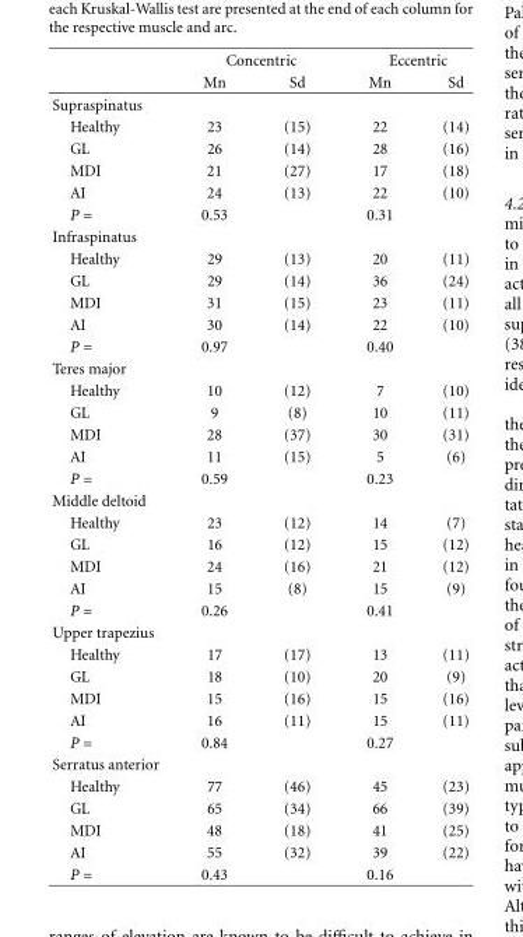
<table><thead><tr><td rowspan="2"></td><td colspan="2">Concentric</td><td colspan="2">Eccentric</td></tr><tr><td>Mn</td><td>Sd</td><td>Mn</td><td>Sd</td></tr></thead><tbody><tr><td colspan="5">Supraspinatus</td></tr><tr><td>Healthy</td><td>23</td><td>(15)</td><td>22</td><td>(14)</td></tr><tr><td>GL</td><td>26</td><td>(14)</td><td>28</td><td>(16)</td></tr><tr><td>MDI</td><td>21</td><td>(27)</td><td>17</td><td>(18)</td></tr><tr><td>AI</td><td>24</td><td>(13)</td><td>22</td><td>(10)</td></tr><tr><td>P =</td><td>0.53</td><td></td><td>0.31</td><td></td></tr><tr><td colspan="5">Infraspinatus</td></tr><tr><td>Healthy</td><td>29</td><td>(13)</td><td>20</td><td>(11)</td></tr><tr><td>GL</td><td>29</td><td>(14)</td><td>36</td><td>(24)</td></tr><tr><td>MDI</td><td>31</td><td>(15)</td><td>23</td><td>(11)</td></tr><tr><td>AI</td><td>30</td><td>(14)</td><td>22</td><td>(10)</td></tr><tr><td>P =</td><td>0.97</td><td></td><td>0.40</td><td></td></tr><tr><td colspan="5">Teres major</td></tr><tr><td>Healthy</td><td>10</td><td>(12)</td><td>7</td><td>(10)</td></tr><tr><td>GL</td><td>9</td><td>(8)</td><td>10</td><td>(11)</td></tr><tr><td>MDI</td><td>28</td><td>(37)</td><td>30</td><td>(31)</td></tr><tr><td>AI</td><td>11</td><td>(15)</td><td>5</td><td>(6)</td></tr><tr><td>P =</td><td>0.59</td><td></td><td>0.23</td><td></td></tr><tr><td colspan="5">Middle deltoid</td></tr><tr><td>Healthy</td><td>23</td><td>(12)</td><td>14</td><td>(7)</td></tr><tr><td>GL</td><td>16</td><td>(12)</td><td>15</td><td>(12)</td></tr><tr><td>MDI</td><td>24</td><td>(16)</td><td>21</td><td>(12)</td></tr><tr><td>AI</td><td>15</td><td>(8)</td><td>15</td><td>(9)</td></tr><tr><td>P =</td><td>0.26</td><td></td><td>0.41</td><td></td></tr><tr><td colspan="5">Upper trapezius</td></tr><tr><td>Healthy</td><td>17</td><td>(17)</td><td>13</td><td>(11)</td></tr><tr><td>GL</td><td>18</td><td>(10)</td><td>20</td><td>(9)</td></tr><tr><td>MDI</td><td>15</td><td>(16)</td><td>15</td><td>(16)</td></tr><tr><td>AI</td><td>16</td><td>(11)</td><td>15</td><td>(11)</td></tr><tr><td>P =</td><td>0.84</td><td></td><td>0.27</td><td></td></tr><tr><td colspan="5">Serratus anterior</td></tr><tr><td>Healthy</td><td>77</td><td>(46)</td><td>45</td><td>(23)</td></tr><tr><td>GL</td><td>65</td><td>(34)</td><td>66</td><td>(39)</td></tr><tr><td>MDI</td><td>48</td><td>(18)</td><td>41</td><td>(25)</td></tr><tr><td>AI</td><td>55</td><td>(32)</td><td>39</td><td>(22)</td></tr><tr><td>P =</td><td>0.43</td><td></td><td>0.16</td><td></td></tr></tbody></table>